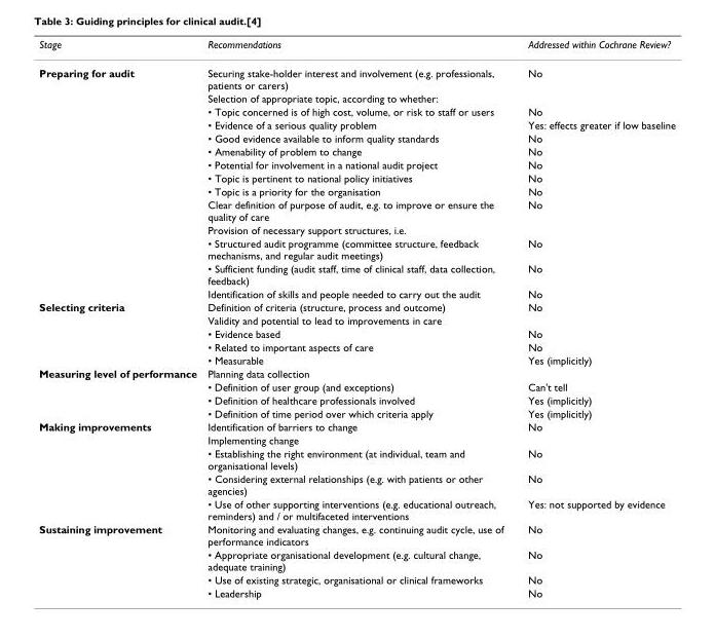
<table><thead><tr><td>Stage</td><td>Recommendations</td><td>Addressed within Cochrane Review?</td></tr></thead><tbody><tr><td rowspan="14">Preparing for audit</td><td>Securing stake-holder interest and involvement (e.g. professionals, patients or carers)</td><td>No</td></tr><tr><td>Selection of appropriate topic, according to whether:</td><td></td></tr><tr><td>• Topic concerned is of high cost, volume, or risk to staff or users</td><td>No</td></tr><tr><td>• Evidence of a serious quality problem</td><td>Yes: effects greater if low baseline</td></tr><tr><td>• Good evidence available to inform quality standards</td><td>No</td></tr><tr><td>• Amenability of problem to change</td><td>No</td></tr><tr><td>• Potential for involvement in a national audit project</td><td>No</td></tr><tr><td>• Topic is pertinent to national policy initiatives</td><td>No</td></tr><tr><td>• Topic is a priority for the organisation</td><td>No</td></tr><tr><td>Clear definition of purpose of audit, e.g. to improve or ensure the quality of care</td><td>No</td></tr><tr><td>Provision of necessary support structures, i.e.</td><td></td></tr><tr><td>• Structured audit programme (committee structure, feedback mechanisms, and regular audit meetings)</td><td>No</td></tr><tr><td>• Sufficient funding (audit staff, time of clinical staff, data collection, feedback)</td><td>No</td></tr><tr><td>Identification of skills and people needed to carry out the audit</td><td>No</td></tr><tr><td rowspan="5">Selecting criteria</td><td>Definition of criteria (structure, process and outcome)</td><td>No</td></tr><tr><td>Validity and potential to lead to improvements in care</td><td></td></tr><tr><td>• Evidence based</td><td>No</td></tr><tr><td>• Related to important aspects of care</td><td>No</td></tr><tr><td>• Measurable</td><td>Yes (implicitly)</td></tr><tr><td rowspan="4">Measuring level of performance</td><td>Planning data collection</td><td></td></tr><tr><td>• Definition of user group (and exceptions)</td><td>Can&#x27;t tell</td></tr><tr><td>• Definition of healthcare professionals involved</td><td>Yes (implicitly)</td></tr><tr><td>• Definition of time period over which criteria apply</td><td>Yes (implicitly)</td></tr><tr><td rowspan="5">Making improvements</td><td>Identification of barriers to change</td><td>No</td></tr><tr><td>Implementing change</td><td></td></tr><tr><td>• Establishing the right environment (at individual, team and organisational levels)</td><td>No</td></tr><tr><td>• Considering external relationships (e.g. with patients or other agencies)</td><td>No</td></tr><tr><td>• Use of other supporting interventions (e.g. educational outreach, reminders) and / or multifaceted interventions</td><td>Yes: not supported by evidence</td></tr><tr><td rowspan="4">Sustaining improvement</td><td>Monitoring and evaluating changes, e.g. continuing audit cycle, use of performance indicators</td><td>No</td></tr><tr><td>• Appropriate organisational development (e.g. cultural change, adequate training)</td><td>No</td></tr><tr><td>• Use of existing strategic, organisational or clinical frameworks</td><td>No</td></tr><tr><td>• Leadership</td><td>No</td></tr></tbody></table>